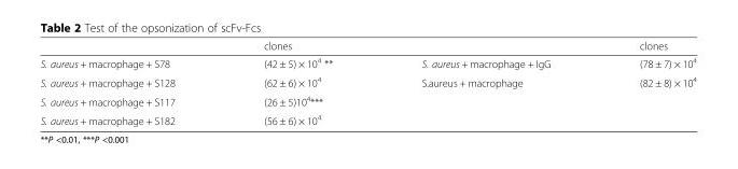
<table><thead><tr><td></td><td>clones</td><td></td><td>clones</td></tr></thead><tbody><tr><td>S. aureus + macrophage + S78</td><td>(42 ± 5) × 10<sup>4</sup> **</td><td>S. aureus + macrophage + IgG</td><td>(78 ± 7) × 10<sup>4</sup></td></tr><tr><td>S. aureus + macrophage + S128</td><td>(62 ± 6) × 10<sup>4</sup></td><td>S.aureus + macrophage</td><td>(82 ± 8) × 10<sup>4</sup></td></tr><tr><td>S. aureus + macrophage + S117</td><td>(26 ± 5)10<sup>4</sup>***</td><td></td><td></td></tr><tr><td>S. aureus + macrophage + S182</td><td>(56 ± 6) × 10<sup>4</sup></td><td></td><td></td></tr></tbody></table>